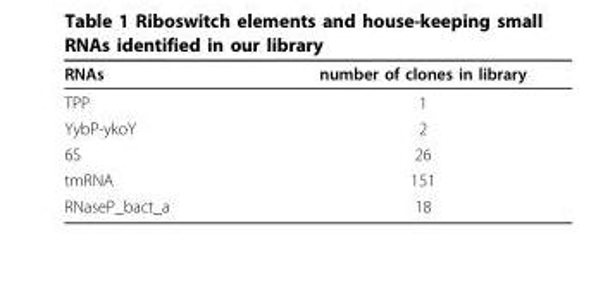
<table><thead><tr><td>RNAs</td><td>number of clones in library</td></tr></thead><tbody><tr><td>TPP</td><td>1</td></tr><tr><td>YybP-ykoY</td><td>2</td></tr><tr><td>6S</td><td>26</td></tr><tr><td>tmRNA</td><td>151</td></tr><tr><td>RNaseP_bact_a</td><td>18</td></tr></tbody></table>